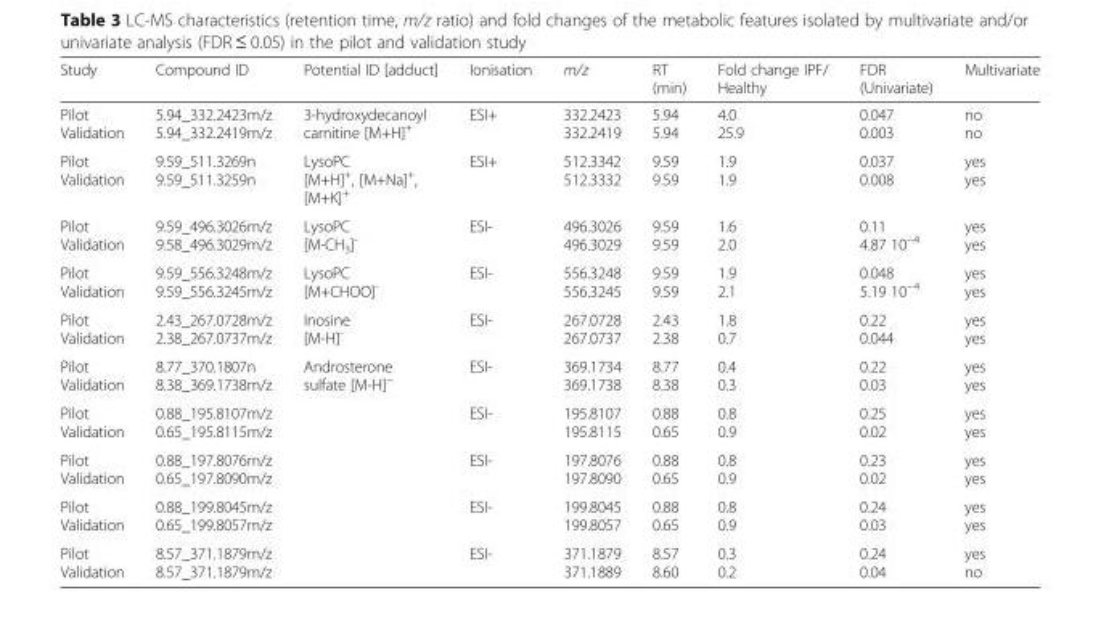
<table><thead><tr><td>Study</td><td>Compound ID</td><td>Potential ID [adduct]</td><td>Ionisation</td><td>m/z</td><td>RT (min)</td><td>Fold change IPF/ Healthy</td><td>FDR (Univariate)</td><td>Multivariate</td></tr></thead><tbody><tr><td>Pilot Validation</td><td>5.94_332.2423m/z 5.94_332.2419m/z</td><td>3-hydroxydecanoyl carnitine [M+H]<sup>+</sup></td><td>ESI+</td><td>332.2423 332.2419</td><td>5.94 5.94</td><td>4.0 25.9</td><td>0.047 0.003</td><td>no no</td></tr><tr><td>Pilot Validation</td><td>9.59_511.3269n 9.59_511.3259n</td><td>LysoPC [M+H]<sup>+</sup>, [M+Na]<sup>+</sup>, [M+K]<sup>+</sup></td><td>ESI+</td><td>512.3342 512.3332</td><td>9.59 9.59</td><td>1.9 1.9</td><td>0.037 0.008</td><td>yes yes</td></tr><tr><td>Pilot Validation</td><td>9.59_496.3026m/z 9.58_496.3029m/z</td><td>LysoPC [M-CH<sub>3</sub>]<sup>-</sup></td><td>ESI-</td><td>496.3026 496.3029</td><td>9.59 9.59</td><td>1.6 2.0</td><td>0.11 4.87 10<sup>−4</sup></td><td>yes yes</td></tr><tr><td>Pilot Validation</td><td>9.59_556.3248m/z 9.59_556.3245m/z</td><td>LysoPC [M+CHOO]<sup>-</sup></td><td>ESI-</td><td>556.3248 556.3245</td><td>9.59 9.59</td><td>1.9 2.1</td><td>0.048 5.19 10<sup>−4</sup></td><td>yes yes</td></tr><tr><td>Pilot Validation</td><td>2.43_267.0728m/z 2.38_267.0737m/z</td><td>Inosine [M-H]<sup>-</sup></td><td>ESI-</td><td>267.0728 267.0737</td><td>2.43 2.38</td><td>1.8 0.7</td><td>0.22 0.044</td><td>yes yes</td></tr><tr><td>Pilot Validation</td><td>8.77_370.1807n 8.38_369.1738m/z</td><td>Androsterone sulfate [M-H]<sup>−</sup></td><td>ESI-</td><td>369.1734 369.1738</td><td>8.77 8.38</td><td>0.4 0.3</td><td>0.22 0.03</td><td>yes yes</td></tr><tr><td>Pilot Validation</td><td>0.88_195.8107m/z 0.65_195.8115m/z</td><td></td><td>ESI-</td><td>195.8107 195.8115</td><td>0.88 0.65</td><td>0.8 0.9</td><td>0.25 0.02</td><td>yes yes</td></tr><tr><td>Pilot Validation</td><td>0.88_197.8076m/z 0.65_197.8090m/z</td><td></td><td>ESI-</td><td>197.8076 197.8090</td><td>0.88 0.65</td><td>0.8 0.9</td><td>0.23 0.02</td><td>yes yes</td></tr><tr><td>Pilot Validation</td><td>0.88_199.8045m/z 0.65_199.8057m/z</td><td></td><td>ESI-</td><td>199.8045 199.8057</td><td>0.88 0.65</td><td>0.8 0.9</td><td>0.24 0.03</td><td>yes yes</td></tr><tr><td>Pilot Validation</td><td>8.57_371.1879m/z 8.57_371.1879m/z</td><td></td><td>ESI-</td><td>371.1879 371.1889</td><td>8.57 8.60</td><td>0.3 0.2</td><td>0.24 0.04</td><td>yes no</td></tr></tbody></table>